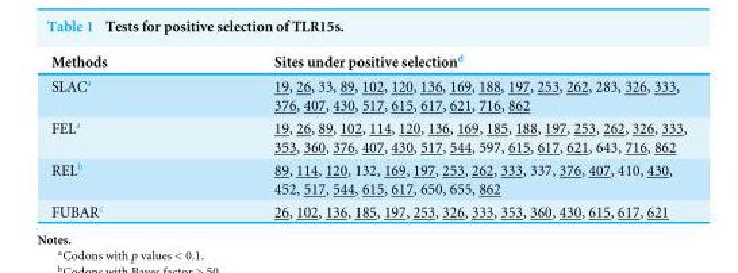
<table><thead><tr><td>Methods</td><td>Sites under positive selection<sup>d</sup></td></tr></thead><tbody><tr><td>SLAC<sup>a</sup></td><td>19, 26, 33, 89, 102, 120, 136, 169, 188, 197, 253, 262, 283, 326, 333, 376, 407, 430, 517, 615, 617, 621, 716, 862</td></tr><tr><td>FEL<sup>a</sup></td><td>19, 26, 89, 102, 114, 120, 136, 169, 185, 188, 197, 253, 262, 326, 333, 353, 360, 376, 407, 430, 517, 544, 597, 615, 617, 621, 643, 716, 862</td></tr><tr><td>REL<sup>b</sup></td><td>89, 114, 120, 132, 169, 197, 253, 262, 333, 337, 376, 407, 410, 430, 452, 517, 544, 615, 617, 650, 655, 862</td></tr><tr><td>FUBAR<sup>c</sup></td><td>26, 102, 136, 185, 197, 253, 326, 333, 353, 360, 430, 615, 617, 621</td></tr></tbody></table>